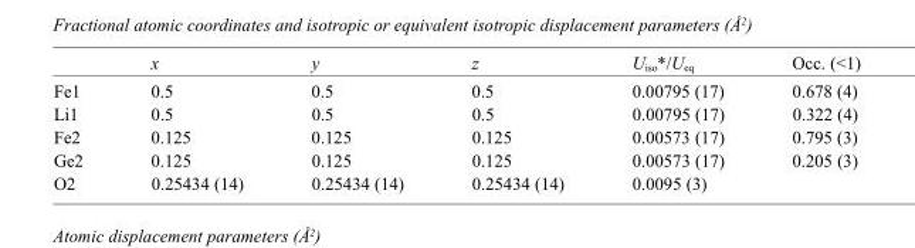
<table><thead><tr><td></td><td>x</td><td>y</td><td>z</td><td>U<sub>iso</sub>*/U<sub>eq</sub></td><td>Occ. (&lt;1)</td></tr></thead><tbody><tr><td>Fe1</td><td>0.5</td><td>0.5</td><td>0.5</td><td>0.00795 (17)</td><td>0.678 (4)</td></tr><tr><td>Li1</td><td>0.5</td><td>0.5</td><td>0.5</td><td>0.00795 (17)</td><td>0.322 (4)</td></tr><tr><td>Fe2</td><td>0.125</td><td>0.125</td><td>0.125</td><td>0.00573 (17)</td><td>0.795 (3)</td></tr><tr><td>Ge2</td><td>0.125</td><td>0.125</td><td>0.125</td><td>0.00573 (17)</td><td>0.205 (3)</td></tr><tr><td>O2</td><td>0.25434 (14)</td><td>0.25434 (14)</td><td>0.25434 (14)</td><td>0.0095 (3)</td><td></td></tr></tbody></table>